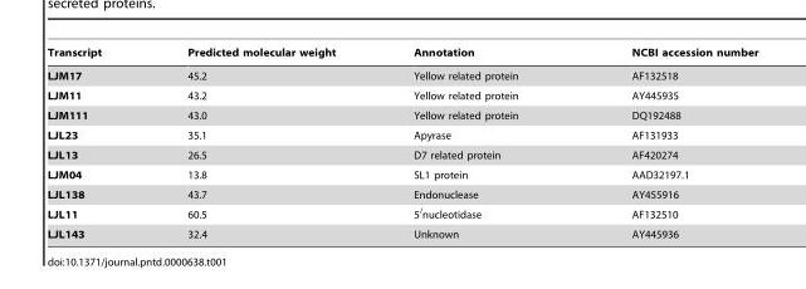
<table><thead><tr><td>Transcript</td><td>Predicted molecular weight</td><td>Annotation</td><td>NCBI accession number</td></tr></thead><tbody><tr><td>LJM17</td><td>45.2</td><td>Yellow related protein</td><td>AF132518</td></tr><tr><td>LJM11</td><td>43.2</td><td>Yellow related protein</td><td>AY445935</td></tr><tr><td>LJM111</td><td>43.0</td><td>Yellow related protein</td><td>DQ192488</td></tr><tr><td>LJL23</td><td>35.1</td><td>Apyrase</td><td>AF131933</td></tr><tr><td>LJL13</td><td>26.5</td><td>D7 related protein</td><td>AF420274</td></tr><tr><td>LJM04</td><td>13.8</td><td>SL1 protein</td><td>AAD32197.1</td></tr><tr><td>LJL138</td><td>43.7</td><td>Endonuclease</td><td>AY455916</td></tr><tr><td>LJL11</td><td>60.5</td><td>5<sup>/</sup>nucleotidase</td><td>AF132510</td></tr><tr><td>LJL143</td><td>32.4</td><td>Unknown</td><td>AY445936</td></tr></tbody></table>